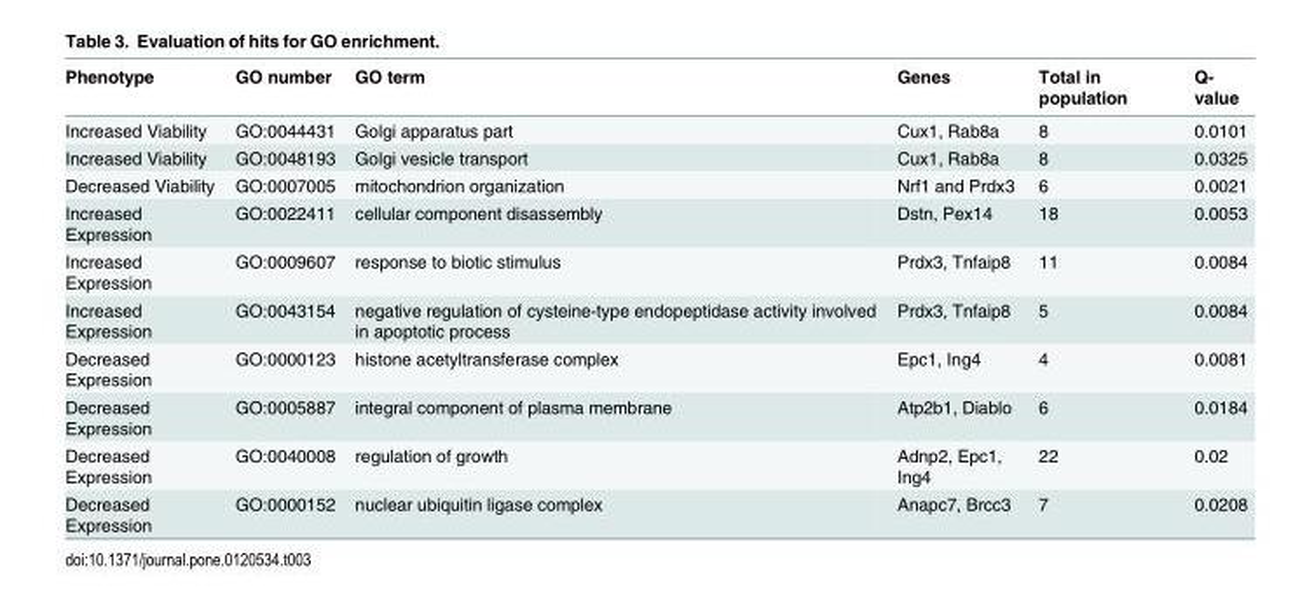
<table><thead><tr><td>Phenotype</td><td>GO number</td><td>GO term</td><td>Genes</td><td>Total in population</td><td>Q- value</td></tr></thead><tbody><tr><td>Increased Viability</td><td>GO:0044431</td><td>Golgi apparatus part</td><td>Cux1, Rab8a</td><td>8</td><td>0.0101</td></tr><tr><td>Increased Viability</td><td>GO:0048193</td><td>Golgi vesicle transport</td><td>Cux1, Rab8a</td><td>8</td><td>0.0325</td></tr><tr><td>Decreased Viability</td><td>GO:0007005</td><td>mitochondrion organization</td><td>Nrf1 and Prdx3</td><td>6</td><td>0.0021</td></tr><tr><td>Increased Expression</td><td>GO:0022411</td><td>cellular component disassembly</td><td>Dstn, Pex14</td><td>18</td><td>0.0053</td></tr><tr><td>Increased Expression</td><td>GO:0009607</td><td>response to biotic stimulus</td><td>Prdx3, Tnfaip8</td><td>11</td><td>0.0084</td></tr><tr><td>Increased Expression</td><td>GO:0043154</td><td>negative regulation of cysteine-type endopeptidase activity involved in apoptotic process</td><td>Prdx3, Tnfaip8</td><td>5</td><td>0.0084</td></tr><tr><td>Decreased Expression</td><td>GO:0000123</td><td>histone acetyltransferase complex</td><td>Epc1, Ing4</td><td>4</td><td>0.0081</td></tr><tr><td>Decreased Expression</td><td>GO:0005887</td><td>integral component of plasma membrane</td><td>Atp2b1, Diablo</td><td>6</td><td>0.0184</td></tr><tr><td>Decreased Expression</td><td>GO:0040008</td><td>regulation of growth</td><td>Adnp2, Epc1, Ing4</td><td>22</td><td>0.02</td></tr><tr><td>Decreased Expression</td><td>GO:0000152</td><td>nuclear ubiquitin ligase complex</td><td>Anapc7, Brcc3</td><td>7</td><td>0.0208</td></tr></tbody></table>